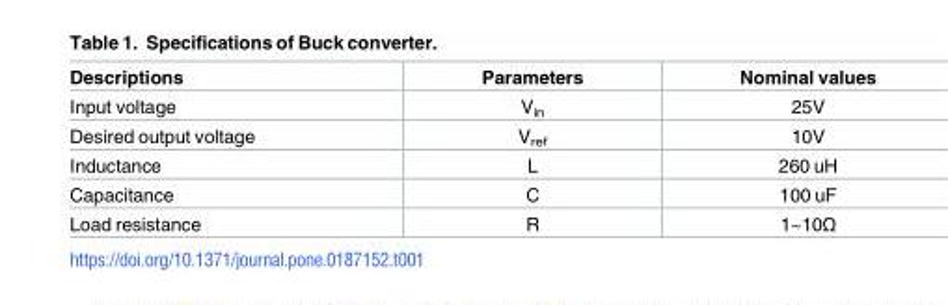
<table><thead><tr><td>Descriptions</td><td>Parameters</td><td>Nominal values</td></tr></thead><tbody><tr><td>Input voltage</td><td>V<sub>in</sub></td><td>25V</td></tr><tr><td>Desired output voltage</td><td>V<sub>ref</sub></td><td>10V</td></tr><tr><td>Inductance</td><td>L</td><td>260 uH</td></tr><tr><td>Capacitance</td><td>C</td><td>100 uF</td></tr><tr><td>Load resistance</td><td>R</td><td>1~10Ω</td></tr></tbody></table>